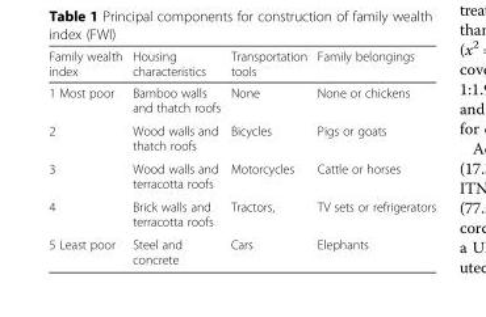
<table><thead><tr><td>Family wealth index</td><td>Housing characteristics</td><td>Transportation tools</td><td>Family belongings</td></tr></thead><tbody><tr><td>1 Most poor</td><td>Bamboo walls and thatch roofs</td><td>None</td><td>None or chickens</td></tr><tr><td>2</td><td>Wood walls and thatch roofs</td><td>Bicycles</td><td>Pigs or goats</td></tr><tr><td>3</td><td>Wood walls and terracotta roofs</td><td>Motorcycles</td><td>Cattle or horses</td></tr><tr><td>4</td><td>Brick walls and terracotta roofs</td><td>Tractors,</td><td>TV sets or refrigerators</td></tr><tr><td>5 Least poor</td><td>Steel and concrete</td><td>Cars</td><td>Elephants</td></tr></tbody></table>